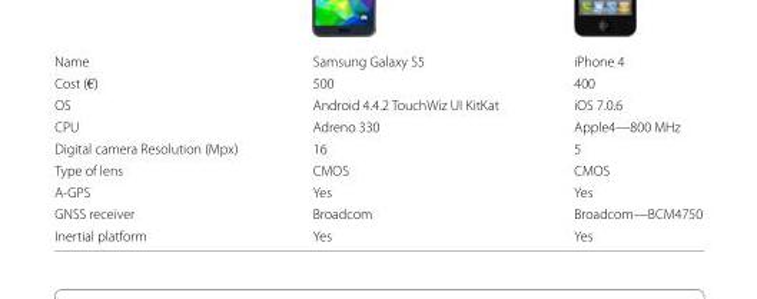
<table><tbody><tr><td>Name</td><td>Samsung Galaxy S5</td><td>iPhone 4</td></tr><tr><td>Cost (€)</td><td>500</td><td>400</td></tr><tr><td>OS</td><td>Android 4.4.2 TouchWiz UI KitKat</td><td>iOS 7.0.6</td></tr><tr><td>CPU</td><td>Adreno 330</td><td>Apple4—800 MHz</td></tr><tr><td>Digital camera Resolution (Mpx)</td><td>16</td><td>5</td></tr><tr><td>Type of lens</td><td>CMOS</td><td>CMOS</td></tr><tr><td>A-GPS</td><td>Yes</td><td>Yes</td></tr><tr><td>GNSS receiver</td><td>Broadcom</td><td>Broadcom—BCM4750</td></tr><tr><td>Inertial platform</td><td>Yes</td><td>Yes</td></tr></tbody></table>